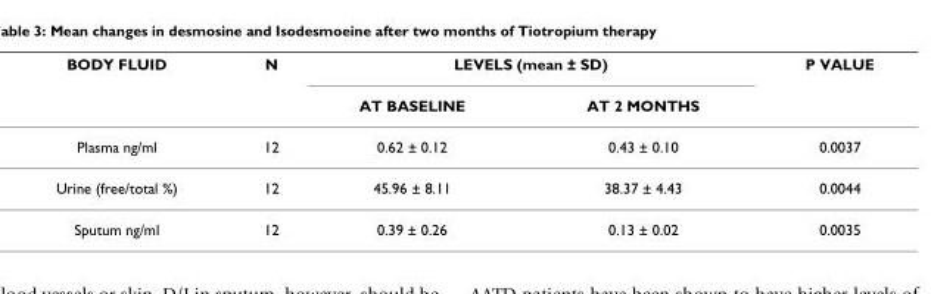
<table><thead><tr><td rowspan="2">BODY FLUID</td><td rowspan="2">N</td><td colspan="2">LEVELS (mean ± SD)</td><td rowspan="2">P VALUE</td></tr><tr><td>AT BASELINE</td><td>AT 2 MONTHS</td></tr></thead><tbody><tr><td>Plasma ng/ml</td><td>12</td><td>0.62 ± 0.12</td><td>0.43 ± 0.10</td><td>0.0037</td></tr><tr><td>Urine (free/total %)</td><td>12</td><td>45.96 ± 8.11</td><td>38.37 ± 4.43</td><td>0.0044</td></tr><tr><td>Sputum ng/ml</td><td>12</td><td>0.39 ± 0.26</td><td>0.13 ± 0.02</td><td>0.0035</td></tr></tbody></table>